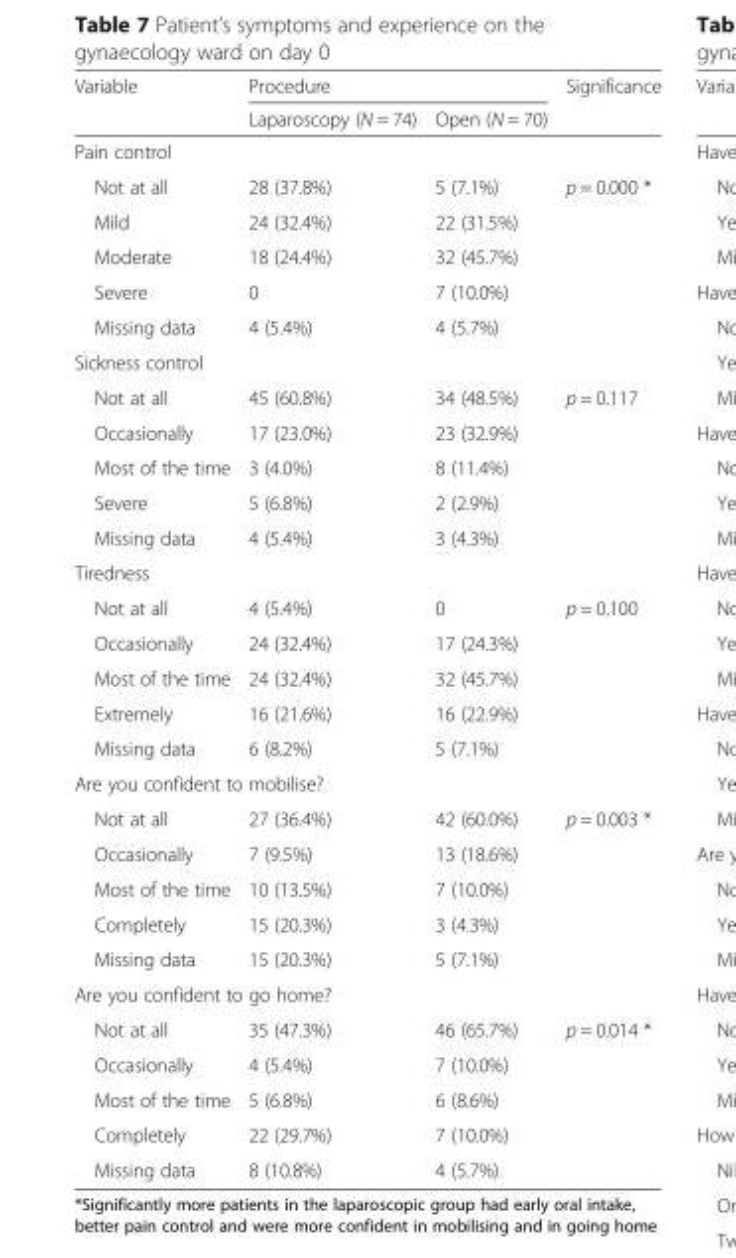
<table><thead><tr><td rowspan="2">Variable</td><td colspan="2">Procedure</td><td rowspan="2">Significance</td></tr><tr><td>Laparoscopy (N = 74)</td><td>Open (N = 70)</td></tr></thead><tbody><tr><td colspan="4">Pain control</td></tr><tr><td>Not at all</td><td>28 (37.8%)</td><td>5 (7.1%)</td><td rowspan="5">p = 0.000 *</td></tr><tr><td>Mild</td><td>24 (32.4%)</td><td>22 (31.5%)</td></tr><tr><td>Moderate</td><td>18 (24.4%)</td><td>32 (45.7%)</td></tr><tr><td>Severe</td><td>0</td><td>7 (10.0%)</td></tr><tr><td>Missing data</td><td>4 (5.4%)</td><td>4 (5.7%)</td></tr><tr><td colspan="4">Sickness control</td></tr><tr><td>Not at all</td><td>45 (60.8%)</td><td>34 (48.5%)</td><td rowspan="5">p = 0.117</td></tr><tr><td>Occasionally</td><td>17 (23.0%)</td><td>23 (32.9%)</td></tr><tr><td>Most of the time</td><td>3 (4.0%)</td><td>8 (11.4%)</td></tr><tr><td>Severe</td><td>5 (6.8%)</td><td>2 (2.9%)</td></tr><tr><td>Missing data</td><td>4 (5.4%)</td><td>3 (4.3%)</td></tr><tr><td colspan="4">Tiredness</td></tr><tr><td>Not at all</td><td>4 (5.4%)</td><td>0</td><td rowspan="5">p = 0.100</td></tr><tr><td>Occasionally</td><td>24 (32.4%)</td><td>17 (24.3%)</td></tr><tr><td>Most of the time</td><td>24 (32.4%)</td><td>32 (45.7%)</td></tr><tr><td>Extremely</td><td>16 (21.6%)</td><td>16 (22.9%)</td></tr><tr><td>Missing data</td><td>6 (8.2%)</td><td>5 (7.1%)</td></tr><tr><td colspan="4">Are you confident to mobilise?</td></tr><tr><td>Not at all</td><td>27 (36.4%)</td><td>42 (60.0%)</td><td rowspan="4">p = 0.003 *</td></tr><tr><td>Occasionally</td><td>7 (9.5%)</td><td>13 (18.6%)</td></tr><tr><td>Most of the time</td><td>10 (13.5%)</td><td>7 (10.0%)</td></tr><tr><td>Completely</td><td>15 (20.3%)</td><td>3 (4.3%)</td></tr><tr><td>Missing data</td><td>15 (20.3%)</td><td>5 (7.1%)</td><td></td></tr><tr><td colspan="4">Are you confident to go home?</td></tr><tr><td>Not at all</td><td>35 (47.3%)</td><td>46 (65.7%)</td><td rowspan="5">p = 0.014 *</td></tr><tr><td>Occasionally</td><td>4 (5.4%)</td><td>7 (10.0%)</td></tr><tr><td>Most of the time</td><td>5 (6.8%)</td><td>6 (8.6%)</td></tr><tr><td>Completely</td><td>22 (29.7%)</td><td>7 (10.0%)</td></tr><tr><td>Missing data</td><td>8 (10.8%)</td><td>4 (5.7%)</td></tr></tbody></table>